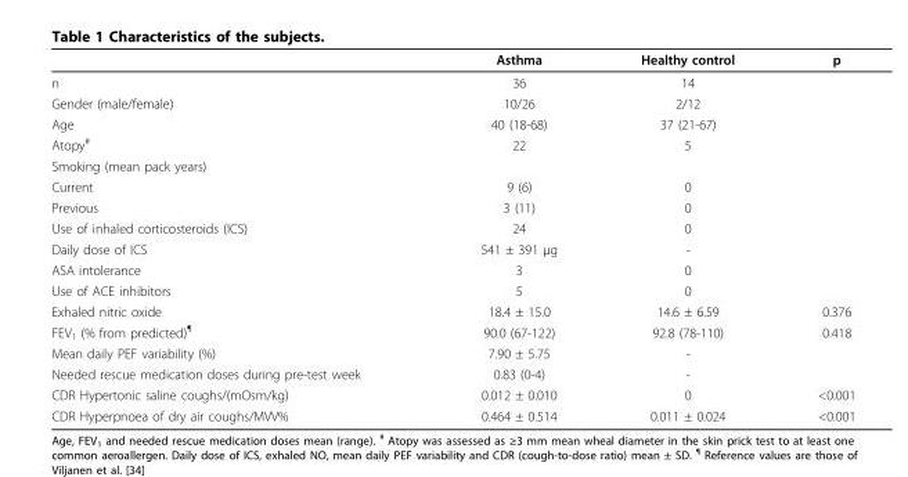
<table><thead><tr><td></td><td>Asthma</td><td>Healthy control</td><td>p</td></tr></thead><tbody><tr><td>n</td><td>36</td><td>14</td><td></td></tr><tr><td>Gender (male/female)</td><td>10/26</td><td>2/12</td><td></td></tr><tr><td>Age</td><td>40 (18-68)</td><td>37 (21-67)</td><td></td></tr><tr><td>Atopy<sup>#</sup></td><td>22</td><td>5</td><td></td></tr><tr><td colspan="4">Smoking (mean pack years)</td></tr><tr><td>Current</td><td>9 (6)</td><td>0</td><td></td></tr><tr><td>Previous</td><td>3 (11)</td><td>0</td><td></td></tr><tr><td>Use of inhaled corticosteroids (ICS)</td><td>24</td><td>0</td><td></td></tr><tr><td>Daily dose of ICS</td><td>541 ± 391 μg</td><td>-</td><td></td></tr><tr><td>ASA intolerance</td><td>3</td><td>0</td><td></td></tr><tr><td>Use of ACE inhibitors</td><td>5</td><td>0</td><td></td></tr><tr><td>Exhaled nitric oxide</td><td>18.4 ± 15.0</td><td>14.6 ± 6.59</td><td>0.376</td></tr><tr><td>FEV<sub>1</sub> (% from predicted)<sup>¶</sup></td><td>90.0 (67-122)</td><td>92.8 (78-110)</td><td>0.418</td></tr><tr><td>Mean daily PEF variability (%)</td><td>7.90 ± 5.75</td><td>-</td><td></td></tr><tr><td>Needed rescue medication doses during pre-test week</td><td>0.83 (0-4)</td><td>-</td><td></td></tr><tr><td>CDR Hypertonic saline coughs/(mOsm/kg)</td><td>0.012 ± 0.010</td><td>0</td><td>&lt;0.001</td></tr><tr><td>CDR Hyperpnoea of dry air coughs/MVV%</td><td>0.464 ± 0.514</td><td>0.011 ± 0.024</td><td>&lt;0.001</td></tr></tbody></table>